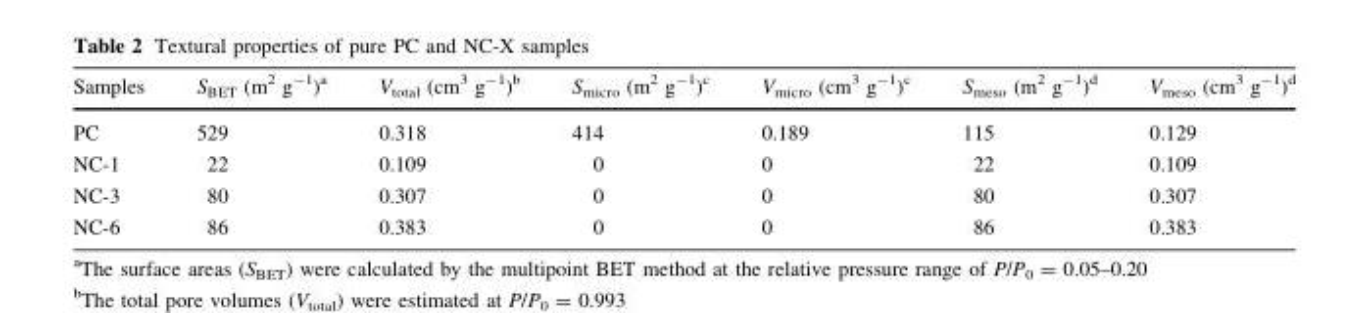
<table><thead><tr><td>Samples</td><td>S<sub>BET</sub> (m<sup>2</sup> g<sup>-1</sup>)<sup>a</sup></td><td>V<sub>total</sub> (cm<sup>3</sup> g<sup>-1</sup>)<sup>b</sup></td><td>S<sub>micro</sub> (m<sup>2</sup> g<sup>-1</sup>)<sup>c</sup></td><td>V<sub>micro</sub> (cm<sup>3</sup> g<sup>-1</sup>)<sup>c</sup></td><td>S<sub>meso</sub> (m<sup>2</sup> g<sup>-1</sup>)<sup>d</sup></td><td>V<sub>meso</sub> (cm<sup>3</sup> g<sup>-1</sup>)<sup>d</sup></td></tr></thead><tbody><tr><td>PC</td><td>529</td><td>0.318</td><td>414</td><td>0.189</td><td>115</td><td>0.129</td></tr><tr><td>NC-1</td><td>22</td><td>0.109</td><td>0</td><td>0</td><td>22</td><td>0.109</td></tr><tr><td>NC-3</td><td>80</td><td>0.307</td><td>0</td><td>0</td><td>80</td><td>0.307</td></tr><tr><td>NC-6</td><td>86</td><td>0.383</td><td>0</td><td>0</td><td>86</td><td>0.383</td></tr></tbody></table>